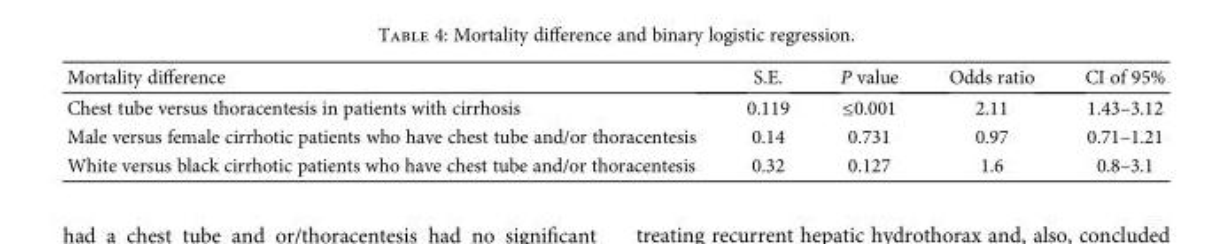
<table><thead><tr><td>Mortality difference</td><td>S.E.</td><td>P value</td><td>Odds ratio</td><td>CI of 95%</td></tr></thead><tbody><tr><td>Chest tube versus thoracentesis in patients with cirrhosis</td><td>0.119</td><td>≤0.001</td><td>2.11</td><td>1.43–3.12</td></tr><tr><td>Male versus female cirrhotic patients who have chest tube and/or thoracentesis</td><td>0.14</td><td>0.731</td><td>0.97</td><td>0.71–1.21</td></tr><tr><td>White versus black cirrhotic patients who have chest tube and/or thoracentesis</td><td>0.32</td><td>0.127</td><td>1.6</td><td>0.8–3.1</td></tr></tbody></table>